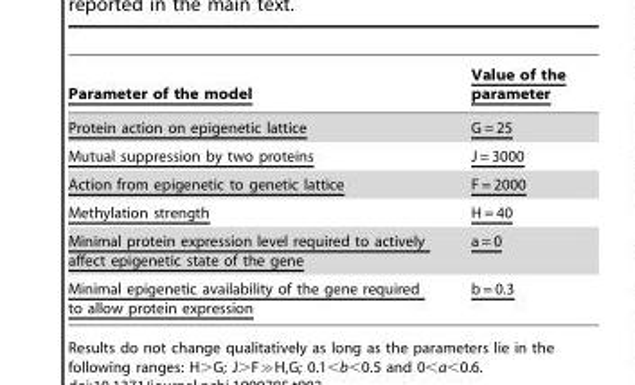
<table><thead><tr><td>Parameter of the model</td><td>Value of the parameter</td></tr></thead><tbody><tr><td>Protein action on epigenetic lattice</td><td>G = 25</td></tr><tr><td>Mutual suppression by two proteins</td><td>J = 3000</td></tr><tr><td>Action from epigenetic to genetic lattice</td><td>F = 2000</td></tr><tr><td>Methylation strength</td><td>H = 40</td></tr><tr><td>Minimal protein expression level required to actively affect epigenetic state of the gene</td><td>a = 0</td></tr><tr><td>Minimal epigenetic availability of the gene required to allow protein expression</td><td>b = 0.3</td></tr></tbody></table>